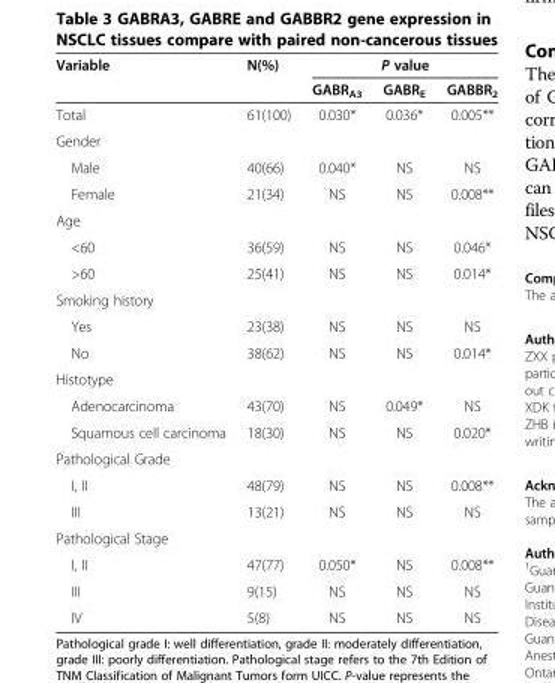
<table><thead><tr><td rowspan="2">Variable</td><td rowspan="2">N(%)</td><td colspan="3">P value</td></tr><tr><td>GABR<sub>A3</sub></td><td>GABR<sub>E</sub></td><td>GABBR<sub>2</sub></td></tr></thead><tbody><tr><td>Total</td><td>61(100)</td><td>0.030*</td><td>0.036*</td><td>0.005**</td></tr><tr><td colspan="5">Gender</td></tr><tr><td>Male</td><td>40(66)</td><td>0.040*</td><td>NS</td><td>NS</td></tr><tr><td>Female</td><td>21(34)</td><td>NS</td><td>NS</td><td>0.008**</td></tr><tr><td colspan="5">Age</td></tr><tr><td>&lt;60</td><td>36(59)</td><td>NS</td><td>NS</td><td>0.046*</td></tr><tr><td>&gt;60</td><td>25(41)</td><td>NS</td><td>NS</td><td>0.014*</td></tr><tr><td colspan="5">Smoking history</td></tr><tr><td>Yes</td><td>23(38)</td><td>NS</td><td>NS</td><td>NS</td></tr><tr><td>No</td><td>38(62)</td><td>NS</td><td>NS</td><td>0.014*</td></tr><tr><td colspan="5">Histotype</td></tr><tr><td>Adenocarcinoma</td><td>43(70)</td><td>NS</td><td>0.049*</td><td>NS</td></tr><tr><td>Squamous cell carcinoma</td><td>18(30)</td><td>NS</td><td>NS</td><td>0.020*</td></tr><tr><td colspan="5">Pathological Grade</td></tr><tr><td>I, II</td><td>48(79)</td><td>NS</td><td>NS</td><td>0.008**</td></tr><tr><td>III</td><td>13(21)</td><td>NS</td><td>NS</td><td>NS</td></tr><tr><td colspan="5">Pathological Stage</td></tr><tr><td>I, II</td><td>47(77)</td><td>0.050*</td><td>NS</td><td>0.008**</td></tr><tr><td>III</td><td>9(15)</td><td>NS</td><td>NS</td><td>NS</td></tr><tr><td>IV</td><td>5(8)</td><td>NS</td><td>NS</td><td>NS</td></tr></tbody></table>